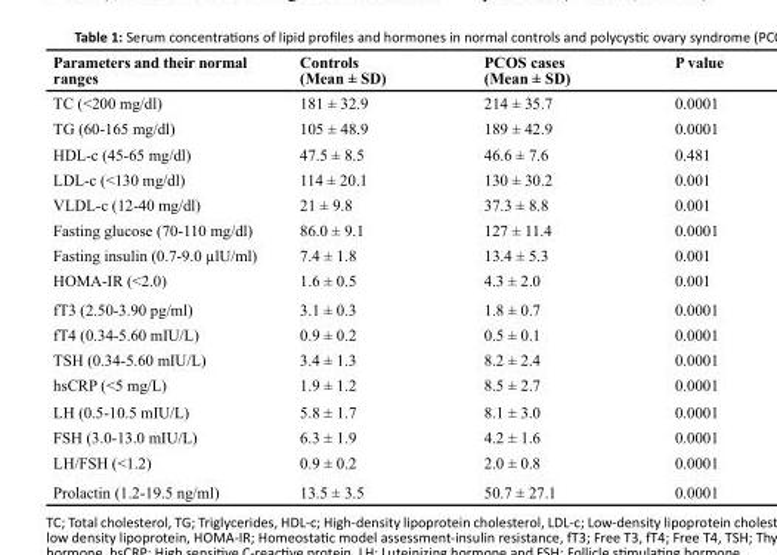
<table><thead><tr><td>Parameters and their normal ranges</td><td>Controls (Mean ± SD)</td><td>PCOS cases (Mean ± SD)</td><td>P value</td></tr></thead><tbody><tr><td>TC (&lt;200 mg/dl)</td><td>181 ± 32.9</td><td>214 ± 35.7</td><td>0.0001</td></tr><tr><td>TG (60-165 mg/dl)</td><td>105 ± 48.9</td><td>189 ± 42.9</td><td>0.0001</td></tr><tr><td>HDL-c (45-65 mg/dl)</td><td>47.5 ± 8.5</td><td>46.6 ± 7.6</td><td>0.481</td></tr><tr><td>LDL-c (&lt;130 mg/dl)</td><td>114 ± 20.1</td><td>130 ± 30.2</td><td>0.001</td></tr><tr><td>VLDL-c (12-40 mg/dl)</td><td>21 ± 9.8</td><td>37.3 ± 8.8</td><td>0.001</td></tr><tr><td>Fasting glucose (70-110 mg/dl)</td><td>86.0 ± 9.1</td><td>127 ± 11.4</td><td>0.0001</td></tr><tr><td>Fasting insulin (0.7-9.0 µlU/ml)</td><td>7.4 ± 1.8</td><td>13.4 ± 5.3</td><td>0.001</td></tr><tr><td>HOMA-IR (&lt;2.0)</td><td>1.6 ± 0.5</td><td>4.3 ± 2.0</td><td>0.001</td></tr><tr><td>fT3 (2.50-3.90 pg/ml)</td><td>3.1 ± 0.3</td><td>1.8 ± 0.7</td><td>0.0001</td></tr><tr><td>fT4 (0.34-5.60 mIU/L)</td><td>0.9 ± 0.2</td><td>0.5 ± 0.1</td><td>0.0001</td></tr><tr><td>TSH (0.34-5.60 mIU/L)</td><td>3.4 ± 1.3</td><td>8.2 ± 2.4</td><td>0.0001</td></tr><tr><td>hsCRP (&lt;5 mg/L)</td><td>1.9 ± 1.2</td><td>8.5 ± 2.7</td><td>0.0001</td></tr><tr><td>LH (0.5-10.5 mIU/L)</td><td>5.8 ± 1.7</td><td>8.1 ± 3.0</td><td>0.0001</td></tr><tr><td>FSH (3.0-13.0 mIU/L)</td><td>6.3 ± 1.9</td><td>4.2 ± 1.6</td><td>0.0001</td></tr><tr><td>LH/FSH (&lt;1.2)</td><td>0.9 ± 0.2</td><td>2.0 ± 0.8</td><td>0.0001</td></tr><tr><td>Prolactin (1.2-19.5 ng/ml)</td><td>13.5 ± 3.5</td><td>50.7 ± 27.1</td><td>0.0001</td></tr></tbody></table>